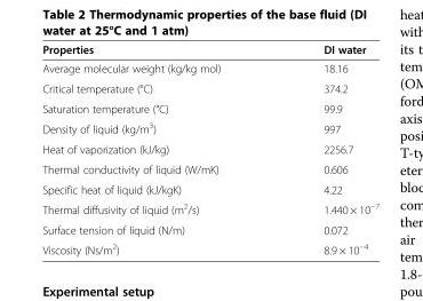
<table><thead><tr><td>Properties</td><td>DI water</td></tr></thead><tbody><tr><td>Average molecular weight (kg/kg mol)</td><td>18.16</td></tr><tr><td>Critical temperature (°C)</td><td>374.2</td></tr><tr><td>Saturation temperature (°C)</td><td>99.9</td></tr><tr><td>Density of liquid (kg/m<sup>3</sup>)</td><td>997</td></tr><tr><td>Heat of vaporization (kJ/kg)</td><td>2256.7</td></tr><tr><td>Thermal conductivity of liquid (W/mK)</td><td>0.606</td></tr><tr><td>Specific heat of liquid (kJ/kgK)</td><td>4.22</td></tr><tr><td>Thermal diffusivity of liquid (m<sup>2</sup>/s)</td><td>1.440 × 10<sup>−7</sup></td></tr><tr><td>Surface tension of liquid (N/m)</td><td>0.072</td></tr><tr><td>Viscosity (Ns/m<sup>2</sup>)</td><td>8.9 × 10<sup>−4</sup></td></tr></tbody></table>